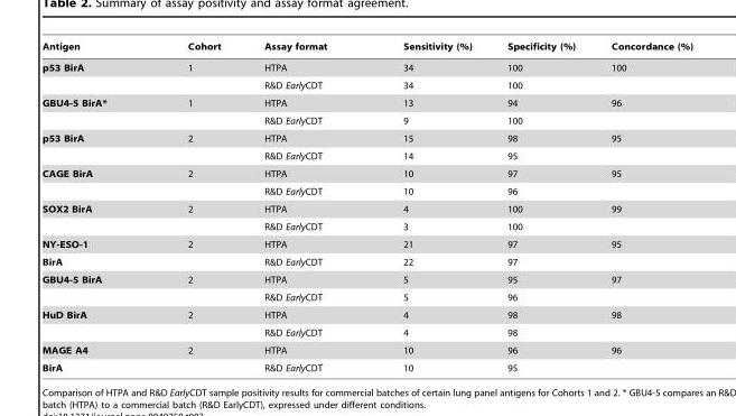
<table><thead><tr><td>Antigen</td><td>Cohort</td><td>Assay format</td><td>Sensitivity (%)</td><td>Specificity (%)</td><td>Concordance (%)</td></tr></thead><tbody><tr><td rowspan="2">p53 BirA</td><td>1</td><td>HTPA</td><td>34</td><td>100</td><td>100</td></tr><tr><td></td><td>R&amp;D EarlyCDT</td><td>34</td><td>100</td><td></td></tr><tr><td rowspan="2">GBU4-5 BirA*</td><td>1</td><td>HTPA</td><td>13</td><td>94</td><td>96</td></tr><tr><td></td><td>R&amp;D EarlyCDT</td><td>9</td><td>100</td><td></td></tr><tr><td rowspan="2">p53 BirA</td><td>2</td><td>HTPA</td><td>15</td><td>98</td><td>95</td></tr><tr><td></td><td>R&amp;D EarlyCDT</td><td>14</td><td>95</td><td></td></tr><tr><td rowspan="2">CAGE BirA</td><td>2</td><td>HTPA</td><td>10</td><td>97</td><td>95</td></tr><tr><td></td><td>R&amp;D EarlyCDT</td><td>10</td><td>96</td><td></td></tr><tr><td rowspan="2">SOX2 BirA</td><td>2</td><td>HTPA</td><td>4</td><td>100</td><td>99</td></tr><tr><td></td><td>R&amp;D EarlyCDT</td><td>3</td><td>100</td><td></td></tr><tr><td>NY-ESO-1</td><td>2</td><td>HTPA</td><td>21</td><td>97</td><td>95</td></tr><tr><td>BirA</td><td></td><td>R&amp;D EarlyCDT</td><td>22</td><td>97</td><td></td></tr><tr><td rowspan="2">GBU4-5 BirA</td><td>2</td><td>HTPA</td><td>5</td><td>95</td><td>97</td></tr><tr><td></td><td>R&amp;D EarlyCDT</td><td>5</td><td>96</td><td></td></tr><tr><td rowspan="2">HuD BirA</td><td>2</td><td>HTPA</td><td>4</td><td>98</td><td>98</td></tr><tr><td></td><td>R&amp;D EarlyCDT</td><td>4</td><td>98</td><td></td></tr><tr><td>MAGE A4</td><td>2</td><td>HTPA</td><td>10</td><td>96</td><td>96</td></tr><tr><td>BirA</td><td></td><td>R&amp;D EarlyCDT</td><td>10</td><td>95</td><td></td></tr></tbody></table>